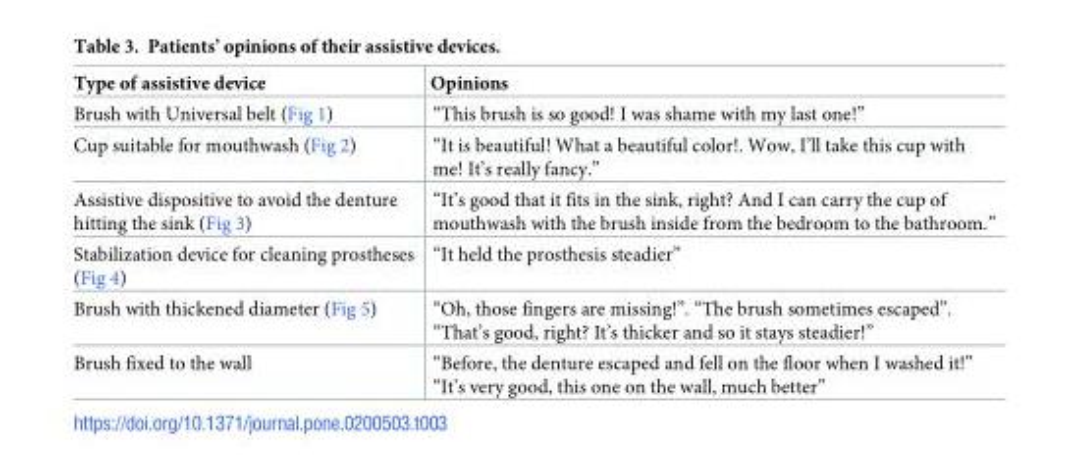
<table><thead><tr><td>Type of assistive device</td><td>Opinions</td></tr></thead><tbody><tr><td>Brush with Universal belt (Fig 1)</td><td>“This brush is so good! I was shame with my last one!”</td></tr><tr><td>Cup suitable for mouthwash (Fig 2)</td><td>“It is beautiful! What a beautiful color!. Wow, I’ll take this cup with me! It’s really fancy.”</td></tr><tr><td>Assistive dispositive to avoid the denture hitting the sink (Fig 3)</td><td>“It’s good that it fits in the sink, right? And I can carry the cup of mouthwash with the brush inside from the bedroom to the bathroom.”</td></tr><tr><td>Stabilization device for cleaning prostheses (Fig 4)</td><td>“It held the prosthesis steadier”</td></tr><tr><td>Brush with thickened diameter (Fig 5)</td><td>“Oh, those fingers are missing!”. “The brush sometimes escaped”. “That’s good, right? It’s thicker and so it stays steadier!”</td></tr><tr><td>Brush fixed to the wall</td><td>“Before, the denture escaped and fell on the floor when I washed it!” “It’s very good, this one on the wall, much better”</td></tr></tbody></table>